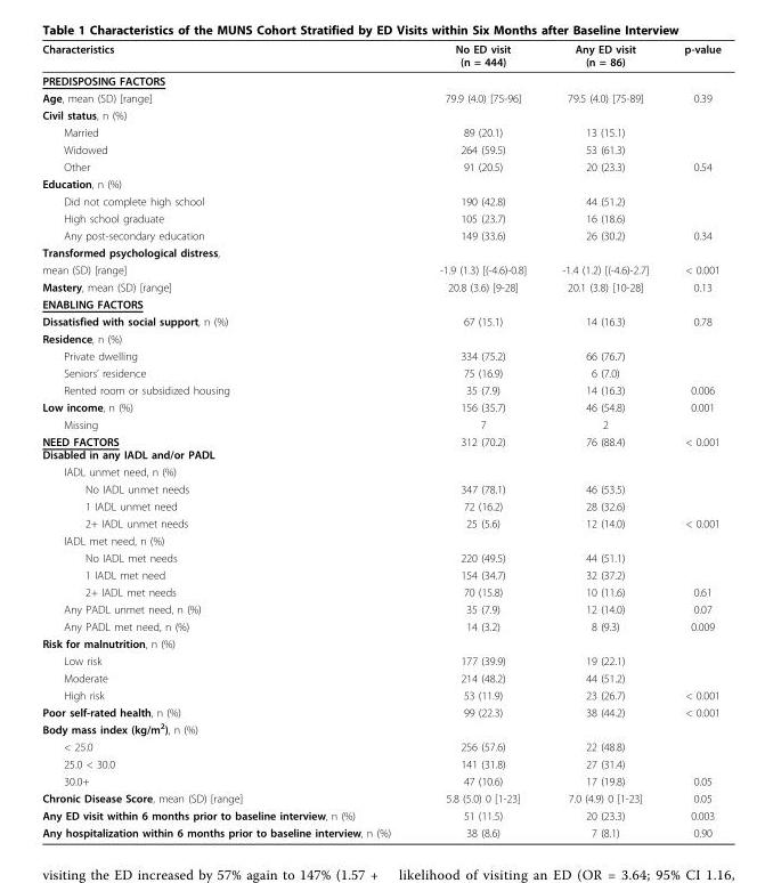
<table><thead><tr><td>Characteristics</td><td>No ED visit (n = 444)</td><td>Any ED visit (n = 86)</td><td>p-value</td></tr></thead><tbody><tr><td colspan="4">PREDISPOSING FACTORS</td></tr><tr><td>Age, mean (SD) [range]</td><td>79.9 (4.0) [75-96]</td><td>79.5 (4.0) [75-89]</td><td>0.39</td></tr><tr><td colspan="4">Civil status, n (%)</td></tr><tr><td>Married</td><td>89 (20.1)</td><td>13 (15.1)</td><td></td></tr><tr><td>Widowed</td><td>264 (59.5)</td><td>53 (61.3)</td><td></td></tr><tr><td>Other</td><td>91 (20.5)</td><td>20 (23.3)</td><td>0.54</td></tr><tr><td colspan="4">Education, n (%)</td></tr><tr><td>Did not complete high school</td><td>190 (42.8)</td><td>44 (51.2)</td><td></td></tr><tr><td>High school graduate</td><td>105 (23.7)</td><td>16 (18.6)</td><td></td></tr><tr><td>Any post-secondary education</td><td>149 (33.6)</td><td>26 (30.2)</td><td>0.34</td></tr><tr><td colspan="4">Transformed psychological distress,</td></tr><tr><td>mean (SD) [range]</td><td>-1.9 (1.3) [(-4.6)-0.8]</td><td>-1.4 (1.2) [(-4.6)-2.7]</td><td>&lt; 0.001</td></tr><tr><td>Mastery, mean (SD) [range]</td><td>20.8 (3.6) [9-28]</td><td>20.1 (3.8) [10-28]</td><td>0.13</td></tr><tr><td colspan="4">ENABLING FACTORS</td></tr><tr><td>Dissatisfied with social support, n (%)</td><td>67 (15.1)</td><td>14 (16.3)</td><td>0.78</td></tr><tr><td colspan="4">Residence, n (%)</td></tr><tr><td>Private dwelling</td><td>334 (75.2)</td><td>66 (76.7)</td><td></td></tr><tr><td>Seniors’ residence</td><td>75 (16.9)</td><td>6 (7.0)</td><td></td></tr><tr><td>Rented room or subsidized housing</td><td>35 (7.9)</td><td>14 (16.3)</td><td>0.006</td></tr><tr><td>Low income, n (%)</td><td>156 (35.7)</td><td>46 (54.8)</td><td>0.001</td></tr><tr><td>Missing</td><td>7</td><td>2</td><td></td></tr><tr><td>NEED FACTORS Disabled in any IADL and/or PADL</td><td>312 (70.2)</td><td>76 (88.4)</td><td>&lt; 0.001</td></tr><tr><td colspan="4">IADL unmet need, n (%)</td></tr><tr><td>No IADL unmet needs</td><td>347 (78.1)</td><td>46 (53.5)</td><td></td></tr><tr><td>1 IADL unmet need</td><td>72 (16.2)</td><td>28 (32.6)</td><td></td></tr><tr><td>2+ IADL unmet needs</td><td>25 (5.6)</td><td>12 (14.0)</td><td>&lt; 0.001</td></tr><tr><td colspan="4">IADL met need, n (%)</td></tr><tr><td>No IADL met needs</td><td>220 (49.5)</td><td>44 (51.1)</td><td></td></tr><tr><td>1 IADL met need</td><td>154 (34.7)</td><td>32 (37.2)</td><td></td></tr><tr><td>2+ IADL met needs</td><td>70 (15.8)</td><td>10 (11.6)</td><td>0.61</td></tr><tr><td>Any PADL unmet need, n (%)</td><td>35 (7.9)</td><td>12 (14.0)</td><td>0.07</td></tr><tr><td>Any PADL met need, n (%)</td><td>14 (3.2)</td><td>8 (9.3)</td><td>0.009</td></tr><tr><td colspan="4">Risk for malnutrition, n (%)</td></tr><tr><td>Low risk</td><td>177 (39.9)</td><td>19 (22.1)</td><td></td></tr><tr><td>Moderate</td><td>214 (48.2)</td><td>44 (51.2)</td><td></td></tr><tr><td>High risk</td><td>53 (11.9)</td><td>23 (26.7)</td><td>&lt; 0.001</td></tr><tr><td>Poor self-rated health, n (%)</td><td>99 (22.3)</td><td>38 (44.2)</td><td>&lt; 0.001</td></tr><tr><td colspan="4">Body mass index (kg/m<sup>2</sup>), n (%)</td></tr><tr><td>&lt; 25.0</td><td>256 (57.6)</td><td>22 (48.8)</td><td></td></tr><tr><td>25.0 &lt; 30.0</td><td>141 (31.8)</td><td>27 (31.4)</td><td></td></tr><tr><td>30.0+</td><td>47 (10.6)</td><td>17 (19.8)</td><td>0.05</td></tr><tr><td>Chronic Disease Score, mean (SD) [range]</td><td>5.8 (5.0) 0 [1-23]</td><td>7.0 (4.9) 0 [1-23]</td><td>0.05</td></tr><tr><td>Any ED visit within 6 months prior to baseline interview, n (%)</td><td>51 (11.5)</td><td>20 (23.3)</td><td>0.003</td></tr><tr><td>Any hospitalization within 6 months prior to baseline interview, n (%)</td><td>38 (8.6)</td><td>7 (8.1)</td><td>0.90</td></tr></tbody></table>